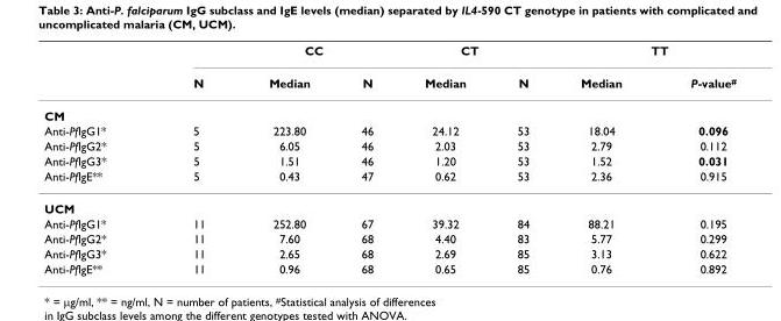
<table><thead><tr><td rowspan="2"></td><td rowspan="2">N</td><td colspan="2">CC</td><td colspan="2">CT</td><td colspan="2">TT</td></tr><tr><td>Median</td><td>N</td><td>Median</td><td>N</td><td>Median</td><td>P-value<sup>#</sup></td></tr></thead><tbody><tr><td colspan="8">CM</td></tr><tr><td>Anti-PfIgG1*</td><td>5</td><td>223.80</td><td>46</td><td>24.12</td><td>53</td><td>18.04</td><td>0.096</td></tr><tr><td>Anti-PfIgG2*</td><td>5</td><td>6.05</td><td>46</td><td>2.03</td><td>53</td><td>2.79</td><td>0.112</td></tr><tr><td>Anti-PfIgG3*</td><td>5</td><td>1.51</td><td>46</td><td>1.20</td><td>53</td><td>1.52</td><td>0.031</td></tr><tr><td>Anti-PfIgE**</td><td>5</td><td>0.43</td><td>47</td><td>0.62</td><td>53</td><td>2.36</td><td>0.915</td></tr><tr><td colspan="8">UCM</td></tr><tr><td>Anti-PfIgG1*</td><td>11</td><td>252.80</td><td>67</td><td>39.32</td><td>84</td><td>88.21</td><td>0.195</td></tr><tr><td>Anti-PfIgG2*</td><td>11</td><td>7.60</td><td>68</td><td>4.40</td><td>83</td><td>5.77</td><td>0.299</td></tr><tr><td>Anti-PfIgG3*</td><td>11</td><td>2.65</td><td>68</td><td>2.69</td><td>85</td><td>3.13</td><td>0.622</td></tr><tr><td>Anti-PfIgE**</td><td>11</td><td>0.96</td><td>68</td><td>0.65</td><td>85</td><td>0.76</td><td>0.892</td></tr></tbody></table>